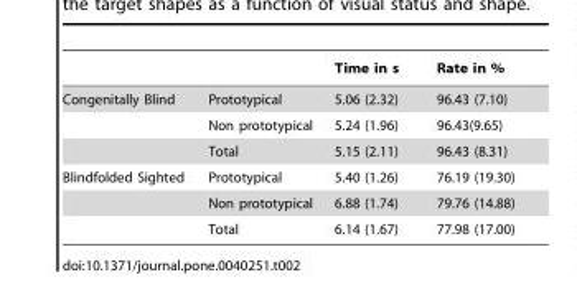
<table><thead><tr><td></td><td></td><td>Time in s</td><td>Rate in %</td></tr></thead><tbody><tr><td rowspan="3">Congenitally Blind</td><td>Prototypical</td><td>5.06 (2.32)</td><td>96.43 (7.10)</td></tr><tr><td>Non prototypical</td><td>5.24 (1.96)</td><td>96.43(9.65)</td></tr><tr><td>Total</td><td>5.15 (2.11)</td><td>96.43 (8.31)</td></tr><tr><td rowspan="3">Blindfolded Sighted</td><td>Prototypical</td><td>5.40 (1.26)</td><td>76.19 (19.30)</td></tr><tr><td>Non prototypical</td><td>6.88 (1.74)</td><td>79.76 (14.88)</td></tr><tr><td>Total</td><td>6.14 (1.67)</td><td>77.98 (17.00)</td></tr></tbody></table>